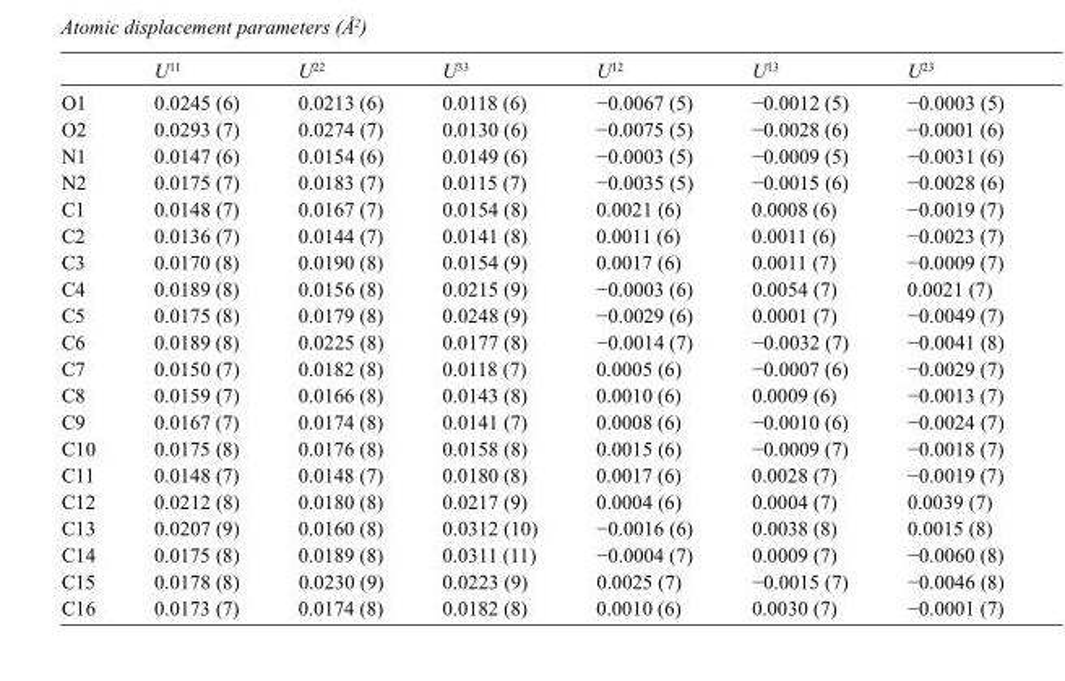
<table><thead><tr><td></td><td>U<sup>11</sup></td><td>U<sup>22</sup></td><td>U<sup>33</sup></td><td>U<sup>12</sup></td><td>U<sup>13</sup></td><td>U<sup>23</sup></td></tr></thead><tbody><tr><td>O1</td><td>0.0245 (6)</td><td>0.0213 (6)</td><td>0.0118 (6)</td><td>−0.0067 (5)</td><td>−0.0012 (5)</td><td>−0.0003 (5)</td></tr><tr><td>O2</td><td>0.0293 (7)</td><td>0.0274 (7)</td><td>0.0130 (6)</td><td>−0.0075 (5)</td><td>−0.0028 (6)</td><td>−0.0001 (6)</td></tr><tr><td>N1</td><td>0.0147 (6)</td><td>0.0154 (6)</td><td>0.0149 (6)</td><td>−0.0003 (5)</td><td>−0.0009 (5)</td><td>−0.0031 (6)</td></tr><tr><td>N2</td><td>0.0175 (7)</td><td>0.0183 (7)</td><td>0.0115 (7)</td><td>−0.0035 (5)</td><td>−0.0015 (6)</td><td>−0.0028 (6)</td></tr><tr><td>C1</td><td>0.0148 (7)</td><td>0.0167 (7)</td><td>0.0154 (8)</td><td>0.0021 (6)</td><td>0.0008 (6)</td><td>−0.0019 (7)</td></tr><tr><td>C2</td><td>0.0136 (7)</td><td>0.0144 (7)</td><td>0.0141 (8)</td><td>0.0011 (6)</td><td>0.0011 (6)</td><td>−0.0023 (7)</td></tr><tr><td>C3</td><td>0.0170 (8)</td><td>0.0190 (8)</td><td>0.0154 (9)</td><td>0.0017 (6)</td><td>0.0011 (7)</td><td>−0.0009 (7)</td></tr><tr><td>C4</td><td>0.0189 (8)</td><td>0.0156 (8)</td><td>0.0215 (9)</td><td>−0.0003 (6)</td><td>0.0054 (7)</td><td>0.0021 (7)</td></tr><tr><td>C5</td><td>0.0175 (8)</td><td>0.0179 (8)</td><td>0.0248 (9)</td><td>−0.0029 (6)</td><td>0.0001 (7)</td><td>−0.0049 (7)</td></tr><tr><td>C6</td><td>0.0189 (8)</td><td>0.0225 (8)</td><td>0.0177 (8)</td><td>−0.0014 (7)</td><td>−0.0032 (7)</td><td>−0.0041 (8)</td></tr><tr><td>C7</td><td>0.0150 (7)</td><td>0.0182 (8)</td><td>0.0118 (7)</td><td>0.0005 (6)</td><td>−0.0007 (6)</td><td>−0.0029 (7)</td></tr><tr><td>C8</td><td>0.0159 (7)</td><td>0.0166 (8)</td><td>0.0143 (8)</td><td>0.0010 (6)</td><td>0.0009 (6)</td><td>−0.0013 (7)</td></tr><tr><td>C9</td><td>0.0167 (7)</td><td>0.0174 (8)</td><td>0.0141 (7)</td><td>0.0008 (6)</td><td>−0.0010 (6)</td><td>−0.0024 (7)</td></tr><tr><td>C10</td><td>0.0175 (8)</td><td>0.0176 (8)</td><td>0.0158 (8)</td><td>0.0015 (6)</td><td>−0.0009 (7)</td><td>−0.0018 (7)</td></tr><tr><td>C11</td><td>0.0148 (7)</td><td>0.0148 (7)</td><td>0.0180 (8)</td><td>0.0017 (6)</td><td>0.0028 (7)</td><td>−0.0019 (7)</td></tr><tr><td>C12</td><td>0.0212 (8)</td><td>0.0180 (8)</td><td>0.0217 (9)</td><td>0.0004 (6)</td><td>0.0004 (7)</td><td>0.0039 (7)</td></tr><tr><td>C13</td><td>0.0207 (9)</td><td>0.0160 (8)</td><td>0.0312 (10)</td><td>−0.0016 (6)</td><td>0.0038 (8)</td><td>0.0015 (8)</td></tr><tr><td>C14</td><td>0.0175 (8)</td><td>0.0189 (8)</td><td>0.0311 (11)</td><td>−0.0004 (7)</td><td>0.0009 (7)</td><td>−0.0060 (8)</td></tr><tr><td>C15</td><td>0.0178 (8)</td><td>0.0230 (9)</td><td>0.0223 (9)</td><td>0.0025 (7)</td><td>−0.0015 (7)</td><td>−0.0046 (8)</td></tr><tr><td>C16</td><td>0.0173 (7)</td><td>0.0174 (8)</td><td>0.0182 (8)</td><td>0.0010 (6)</td><td>0.0030 (7)</td><td>−0.0001 (7)</td></tr></tbody></table>